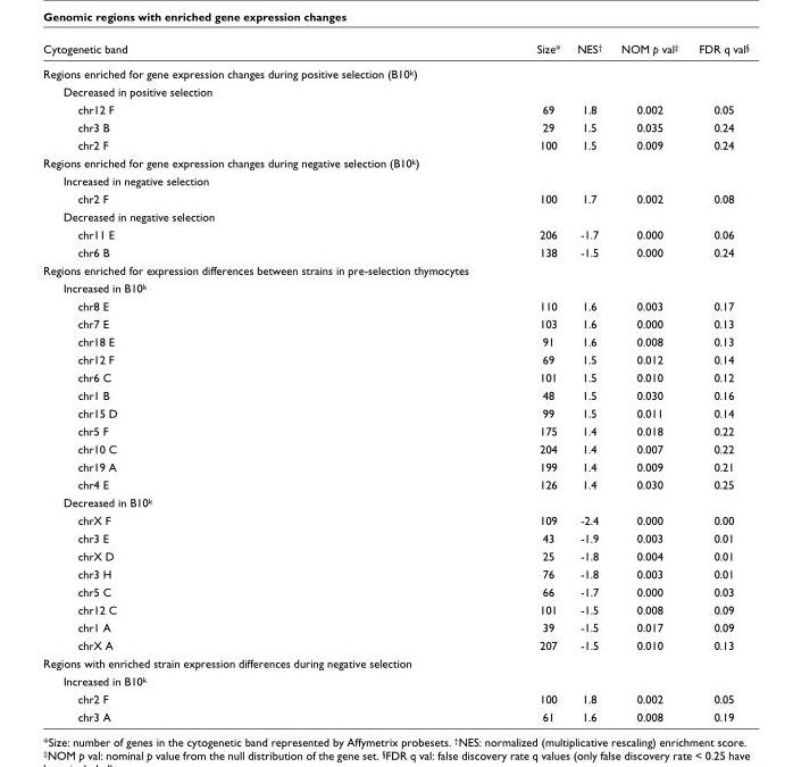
<table><thead><tr><td>Cytogenetic band</td><td>Size*</td><td>NES†</td><td>NOM p val‡</td><td>FDR q val§</td></tr></thead><tbody><tr><td colspan="5">Regions enriched for gene expression changes during positive selection (B10k)</td></tr><tr><td colspan="5">Decreased in positive selection</td></tr><tr><td>chr12 F</td><td>69</td><td>1.8</td><td>0.002</td><td>0.05</td></tr><tr><td>chr3 B</td><td>29</td><td>1.5</td><td>0.035</td><td>0.24</td></tr><tr><td>chr2 F</td><td>100</td><td>1.5</td><td>0.009</td><td>0.24</td></tr><tr><td colspan="5">Regions enriched for gene expression changes during negative selection (B10k)</td></tr><tr><td colspan="5">Increased in negative selection</td></tr><tr><td>chr2 F</td><td>100</td><td>1.7</td><td>0.002</td><td>0.08</td></tr><tr><td colspan="5">Decreased in negative selection</td></tr><tr><td>chr11 E</td><td>206</td><td>-1.7</td><td>0.000</td><td>0.06</td></tr><tr><td>chr6 B</td><td>138</td><td>-1.5</td><td>0.000</td><td>0.24</td></tr><tr><td colspan="5">Regions enriched for expression differences between strains in pre-selection thymocytes</td></tr><tr><td colspan="5">Increased in B10k</td></tr><tr><td>chr8 E</td><td>110</td><td>1.6</td><td>0.003</td><td>0.17</td></tr><tr><td>chr7 E</td><td>103</td><td>1.6</td><td>0.000</td><td>0.13</td></tr><tr><td>chr18 E</td><td>91</td><td>1.6</td><td>0.008</td><td>0.13</td></tr><tr><td>chr12 F</td><td>69</td><td>1.5</td><td>0.012</td><td>0.14</td></tr><tr><td>chr6 C</td><td>101</td><td>1.5</td><td>0.010</td><td>0.12</td></tr><tr><td>chr1 B</td><td>48</td><td>1.5</td><td>0.030</td><td>0.16</td></tr><tr><td>chr15 D</td><td>99</td><td>1.5</td><td>0.011</td><td>0.14</td></tr><tr><td>chr5 F</td><td>175</td><td>1.4</td><td>0.018</td><td>0.22</td></tr><tr><td>chr10 C</td><td>204</td><td>1.4</td><td>0.007</td><td>0.22</td></tr><tr><td>chr19 A</td><td>199</td><td>1.4</td><td>0.009</td><td>0.21</td></tr><tr><td>chr4 E</td><td>126</td><td>1.4</td><td>0.030</td><td>0.25</td></tr><tr><td colspan="5">Decreased in B10k</td></tr><tr><td>chrX F</td><td>109</td><td>-2.4</td><td>0.000</td><td>0.00</td></tr><tr><td>chr3 E</td><td>43</td><td>-1.9</td><td>0.003</td><td>0.01</td></tr><tr><td>chrX D</td><td>25</td><td>-1.8</td><td>0.004</td><td>0.01</td></tr><tr><td>chr3 H</td><td>76</td><td>-1.8</td><td>0.003</td><td>0.01</td></tr><tr><td>chr5 C</td><td>66</td><td>-1.7</td><td>0.000</td><td>0.03</td></tr><tr><td>chr12 C</td><td>101</td><td>-1.5</td><td>0.008</td><td>0.09</td></tr><tr><td>chr1 A</td><td>39</td><td>-1.5</td><td>0.017</td><td>0.09</td></tr><tr><td>chrX A</td><td>207</td><td>-1.5</td><td>0.010</td><td>0.13</td></tr><tr><td colspan="5">Regions with enriched strain expression differences during negative selection</td></tr><tr><td colspan="5">Increased in B10k</td></tr><tr><td>chr2 F</td><td>100</td><td>1.8</td><td>0.002</td><td>0.05</td></tr><tr><td>chr3 A</td><td>61</td><td>1.6</td><td>0.008</td><td>0.19</td></tr></tbody></table>